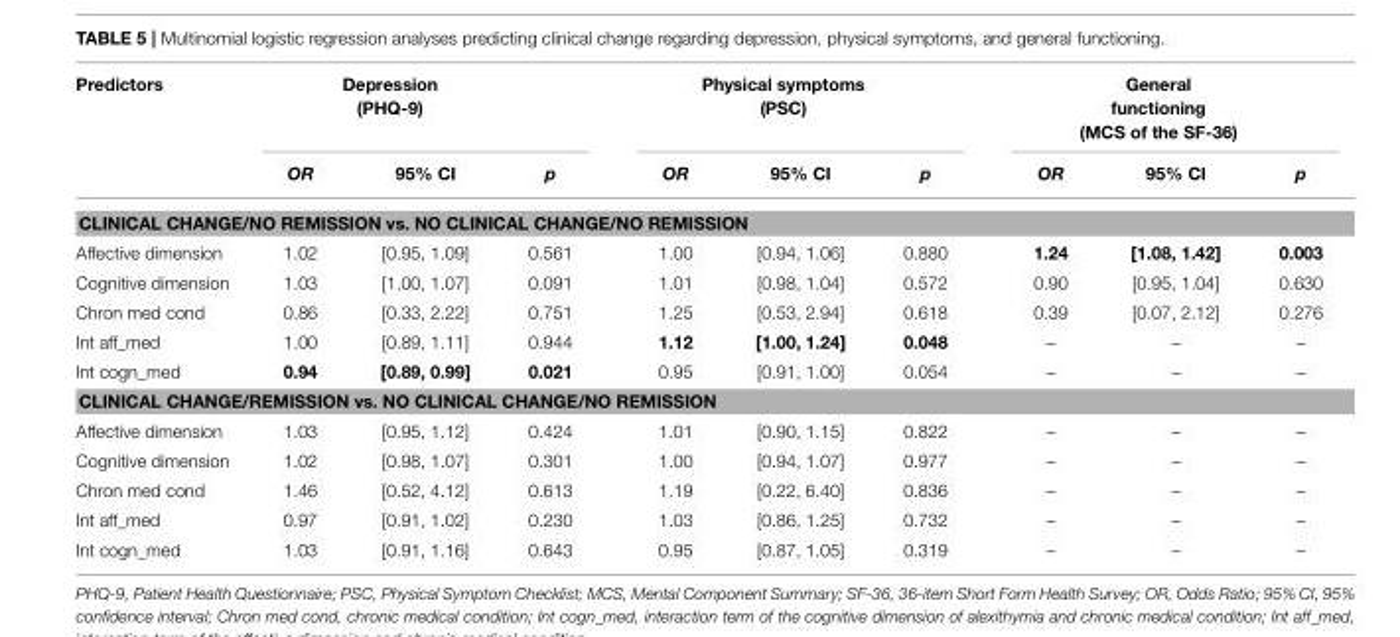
<table><thead><tr><td rowspan="2">Predictors</td><td colspan="3">Depression (PHQ-9)</td><td colspan="3">Physical symptoms (PSC)</td><td colspan="3">General functioning (MCS of the SF-36)</td></tr><tr><td>OR</td><td>95% CI</td><td>p</td><td>OR</td><td>95% CI</td><td>p</td><td>OR</td><td>95% CI</td><td>p</td></tr></thead><tbody><tr><td colspan="10">CLINICAL CHANGE/NO REMISSION vs. NO CLINICAL CHANGE/NO REMISSION</td></tr><tr><td>Affective dimension</td><td>1.02</td><td>[0.95, 1.09]</td><td>0.561</td><td>1.00</td><td>[0.94, 1.06]</td><td>0.880</td><td>1.24</td><td>[1.08, 1.42]</td><td>0.003</td></tr><tr><td>Cognitive dimension</td><td>1.03</td><td>[1.00, 1.07]</td><td>0.091</td><td>1.01</td><td>[0.98, 1.04]</td><td>0.572</td><td>0.90</td><td>[0.95, 1.04]</td><td>0.630</td></tr><tr><td>Chron med cond</td><td>0.86</td><td>[0.33, 2.22]</td><td>0.751</td><td>1.25</td><td>[0.53, 2.94]</td><td>0.618</td><td>0.39</td><td>[0.07, 2.12]</td><td>0.276</td></tr><tr><td>Int aff_med</td><td>1.00</td><td>[0.89, 1.11]</td><td>0.944</td><td>1.12</td><td>[1.00, 1.24]</td><td>0.048</td><td>–</td><td>–</td><td>–</td></tr><tr><td>Int cogn_med</td><td>0.94</td><td>[0.89, 0.99]</td><td>0.021</td><td>0.95</td><td>[0.91, 1.00]</td><td>0.054</td><td>–</td><td>–</td><td>–</td></tr><tr><td colspan="10">CLINICAL CHANGE/REMISSION vs. NO CLINICAL CHANGE/NO REMISSION</td></tr><tr><td>Affective dimension</td><td>1.03</td><td>[0.95, 1.12]</td><td>0.424</td><td>1.01</td><td>[0.90, 1.15]</td><td>0.822</td><td>–</td><td>–</td><td>–</td></tr><tr><td>Cognitive dimension</td><td>1.02</td><td>[0.98, 1.07]</td><td>0.301</td><td>1.00</td><td>[0.94, 1.07]</td><td>0.977</td><td>–</td><td>–</td><td>–</td></tr><tr><td>Chron med cond</td><td>1.46</td><td>[0.52, 4.12]</td><td>0.613</td><td>1.19</td><td>[0.22, 6.40]</td><td>0.836</td><td>–</td><td>–</td><td>–</td></tr><tr><td>Int aff_med</td><td>0.97</td><td>[0.91, 1.02]</td><td>0.230</td><td>1.03</td><td>[0.86, 1.25]</td><td>0.732</td><td>–</td><td>–</td><td>–</td></tr><tr><td>Int cogn_med</td><td>1.03</td><td>[0.91, 1.16]</td><td>0.643</td><td>0.95</td><td>[0.87, 1.05]</td><td>0.319</td><td>–</td><td>–</td><td>–</td></tr></tbody></table>